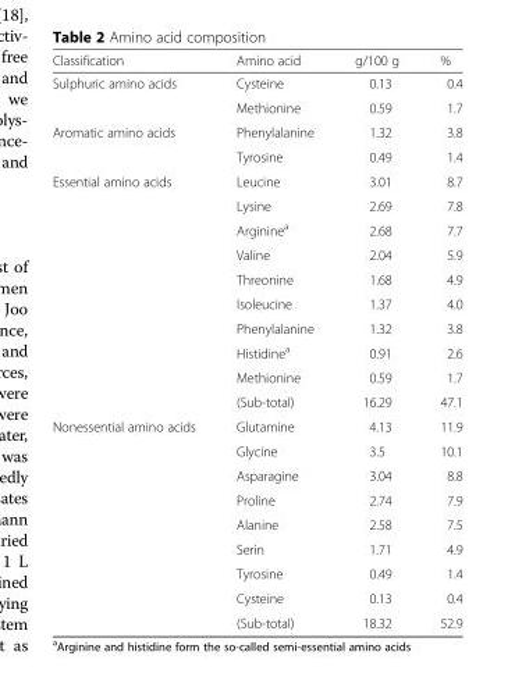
<table><thead><tr><td>Classification</td><td>Amino acid</td><td>g/100 g</td><td>%</td></tr></thead><tbody><tr><td rowspan="2">Sulphuric amino acids</td><td>Cysteine</td><td>0.13</td><td>0.4</td></tr><tr><td>Methionine</td><td>0.59</td><td>1.7</td></tr><tr><td rowspan="2">Aromatic amino acids</td><td>Phenylalanine</td><td>1.32</td><td>3.8</td></tr><tr><td>Tyrosine</td><td>0.49</td><td>1.4</td></tr><tr><td rowspan="10">Essential amino acids</td><td>Leucine</td><td>3.01</td><td>8.7</td></tr><tr><td>Lysine</td><td>2.69</td><td>7.8</td></tr><tr><td>Arginine<sup>a</sup></td><td>2.68</td><td>7.7</td></tr><tr><td>Valine</td><td>2.04</td><td>5.9</td></tr><tr><td>Threonine</td><td>1.68</td><td>4.9</td></tr><tr><td>Isoleucine</td><td>1.37</td><td>4.0</td></tr><tr><td>Phenylalanine</td><td>1.32</td><td>3.8</td></tr><tr><td>Histidine<sup>a</sup></td><td>0.91</td><td>2.6</td></tr><tr><td>Methionine</td><td>0.59</td><td>1.7</td></tr><tr><td>(Sub-total)</td><td>16.29</td><td>47.1</td></tr><tr><td rowspan="9">Nonessential amino acids</td><td>Glutamine</td><td>4.13</td><td>11.9</td></tr><tr><td>Glycine</td><td>3.5</td><td>10.1</td></tr><tr><td>Asparagine</td><td>3.04</td><td>8.8</td></tr><tr><td>Proline</td><td>2.74</td><td>7.9</td></tr><tr><td>Alanine</td><td>2.58</td><td>7.5</td></tr><tr><td>Serin</td><td>1.71</td><td>4.9</td></tr><tr><td>Tyrosine</td><td>0.49</td><td>1.4</td></tr><tr><td>Cysteine</td><td>0.13</td><td>0.4</td></tr><tr><td>(Sub-total)</td><td>18.32</td><td>52.9</td></tr></tbody></table>